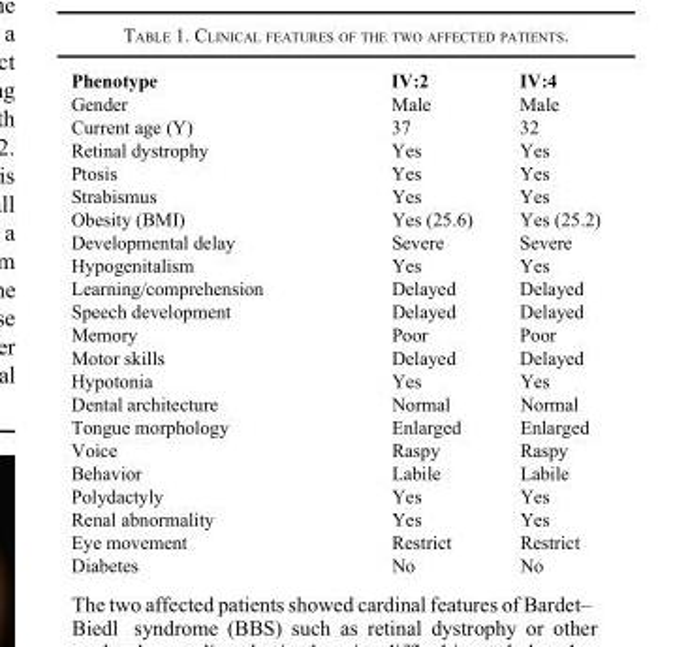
<table><thead><tr><td>Phenotype</td><td>IV:2</td><td>IV:4</td></tr></thead><tbody><tr><td>Gender</td><td>Male</td><td>Male</td></tr><tr><td>Current age (Y)</td><td>37</td><td>32</td></tr><tr><td>Retinal dystrophy</td><td>Yes</td><td>Yes</td></tr><tr><td>Ptosis</td><td>Yes</td><td>Yes</td></tr><tr><td>Strabismus</td><td>Yes</td><td>Yes</td></tr><tr><td>Obesity (BMI)</td><td>Yes (25.6)</td><td>Yes (25.2)</td></tr><tr><td>Developmental delay</td><td>Severe</td><td>Severe</td></tr><tr><td>Hypogenitalism</td><td>Yes</td><td>Yes</td></tr><tr><td>Learning/comprehension</td><td>Delayed</td><td>Delayed</td></tr><tr><td>Speech development</td><td>Delayed</td><td>Delayed</td></tr><tr><td>Memory</td><td>Poor</td><td>Poor</td></tr><tr><td>Motor skills</td><td>Delayed</td><td>Delayed</td></tr><tr><td>Hypotonia</td><td>Yes</td><td>Yes</td></tr><tr><td>Dental architecture</td><td>Normal</td><td>Normal</td></tr><tr><td>Tongue morphology</td><td>Enlarged</td><td>Enlarged</td></tr><tr><td>Voice</td><td>Raspy</td><td>Raspy</td></tr><tr><td>Behavior</td><td>Labile</td><td>Labile</td></tr><tr><td>Polydactyly</td><td>Yes</td><td>Yes</td></tr><tr><td>Renal abnormality</td><td>Yes</td><td>Yes</td></tr><tr><td>Eye movement</td><td>Restrict</td><td>Restrict</td></tr><tr><td>Diabetes</td><td>No</td><td>No</td></tr></tbody></table>